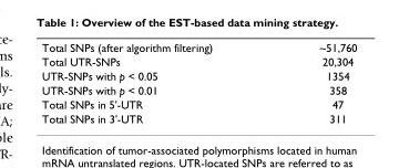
<table><tbody><tr><td>Total SNPs (after algorithm filtering)</td><td>~51,760</td></tr><tr><td>Total UTR-SNPs</td><td>20,304</td></tr><tr><td>UTR-SNPs with p &lt; 0.05</td><td>1354</td></tr><tr><td>UTR-SNPs with p &lt; 0.01</td><td>358</td></tr><tr><td>Total SNPs in 5&#x27;-UTR</td><td>47</td></tr><tr><td>Total SNPs in 3&#x27;-UTR</td><td>311</td></tr></tbody></table>